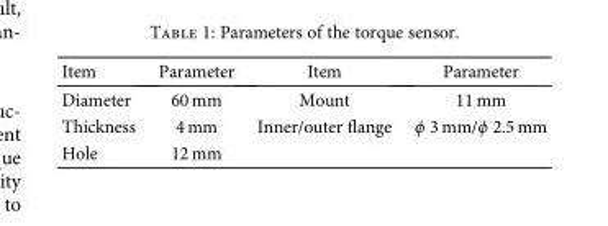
<table><thead><tr><td>Item</td><td>Parameter</td><td>Item</td><td>Parameter</td></tr></thead><tbody><tr><td>Diameter</td><td>60 mm</td><td>Mount</td><td>11 mm</td></tr><tr><td>Thickness</td><td>4 mm</td><td>Inner/outer flange</td><td>ϕ 3 mm/ϕ 2.5 mm</td></tr><tr><td>Hole</td><td>12 mm</td><td></td><td></td></tr></tbody></table>